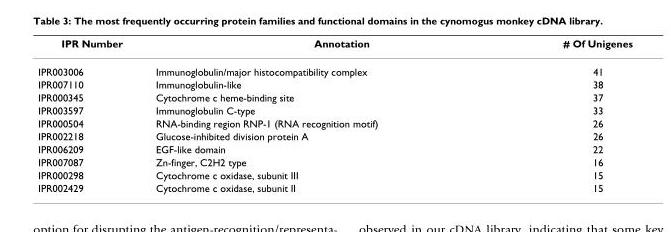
<table><thead><tr><td>IPR Number</td><td>Annotation</td><td># Of Unigenes</td></tr></thead><tbody><tr><td>IPR003006</td><td>Immunoglobulin/major histocompatibility complex</td><td>41</td></tr><tr><td>IPR007110</td><td>Immunoglobulin-like</td><td>38</td></tr><tr><td>IPR000345</td><td>Cytochrome c heme-binding site</td><td>37</td></tr><tr><td>IPR003597</td><td>Immunoglobulin C-type</td><td>33</td></tr><tr><td>IPR000504</td><td>RNA-binding region RNP-1 (RNA recognition motif)</td><td>26</td></tr><tr><td>IPR002218</td><td>Glucose-inhibited division protein A</td><td>26</td></tr><tr><td>IPR006209</td><td>EGF-like domain</td><td>22</td></tr><tr><td>IPR007087</td><td>Zn-finger, C2H2 type</td><td>16</td></tr><tr><td>IPR000298</td><td>Cytochrome c oxidase, subunit III</td><td>15</td></tr><tr><td>IPR002429</td><td>Cytochrome c oxidase, subunit II</td><td>15</td></tr></tbody></table>